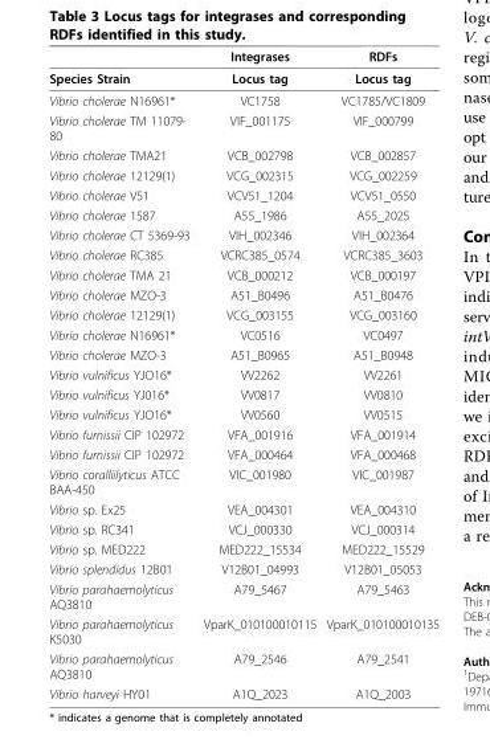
<table><thead><tr><td></td><td>Integrases</td><td>RDFs</td></tr></thead><tbody><tr><td>Species Strain</td><td>Locus tag</td><td>Locus tag</td></tr><tr><td>Vibrio cholerae N16961*</td><td>VC1758</td><td>VC1785/VC1809</td></tr><tr><td>Vibrio cholerae TM 11079- 80</td><td>VIF_001175</td><td>VIF_000799</td></tr><tr><td>Vibrio cholerae TMA21</td><td>VCB_002798</td><td>VCB_002857</td></tr><tr><td>Vibrio cholerae 12129(1)</td><td>VCG_002315</td><td>VCG_002259</td></tr><tr><td>Vibrio cholerae V51</td><td>VCV51_1204</td><td>VCV51_0550</td></tr><tr><td>Vibrio cholerae 1587</td><td>A55_1986</td><td>A55_2025</td></tr><tr><td>Vibrio cholerae CT 5369-93</td><td>VIH_002346</td><td>VIH_002364</td></tr><tr><td>Vibrio cholerae RC385</td><td>VCRC385_0574</td><td>VCRC385_3603</td></tr><tr><td>Vibrio cholerae TMA 21</td><td>VCB_000212</td><td>VCB_000197</td></tr><tr><td>Vibrio cholerae MZO-3</td><td>A51_B0496</td><td>A51_B0476</td></tr><tr><td>Vibrio cholerae 12129(1)</td><td>VCG_003155</td><td>VCG_003160</td></tr><tr><td>Vibrio cholerae N16961*</td><td>VC0516</td><td>VC0497</td></tr><tr><td>Vibrio cholerae MZO-3</td><td>A51_B0965</td><td>A51_B0948</td></tr><tr><td>Vibrio vulnificus YJO16*</td><td>VV2262</td><td>VV2261</td></tr><tr><td>Vibrio vulnificus YJ016*</td><td>VV0817</td><td>VV0810</td></tr><tr><td>Vibrio vulnificus YJO16*</td><td>VV0560</td><td>VV0515</td></tr><tr><td>Vibrio furnissii CIP 102972</td><td>VFA_001916</td><td>VFA_001914</td></tr><tr><td>Vibrio furnissii CIP 102972</td><td>VFA_000464</td><td>VFA_000468</td></tr><tr><td>Vibrio coralliilyticus ATCC BAA-450</td><td>VIC_001980</td><td>VIC_001987</td></tr><tr><td>Vibrio sp. Ex25</td><td>VEA_004301</td><td>VEA_004310</td></tr><tr><td>Vibrio sp. RC341</td><td>VCJ_000330</td><td>VCJ_000314</td></tr><tr><td>Vibrio sp. MED222</td><td>MED222_15534</td><td>MED222_15529</td></tr><tr><td>Vibrio splendidus 12B01</td><td>V12B01_04993</td><td>V12B01_05053</td></tr><tr><td>Vibrio parahaemolyticus AQ3810</td><td>A79_5467</td><td>A79_5463</td></tr><tr><td>Vibrio parahaemolyticus K5030</td><td>VparK_010100010115</td><td>VparK_010100010135</td></tr><tr><td>Vibrio parahaemolyticus AQ3810</td><td>A79_2546</td><td>A79_2541</td></tr><tr><td>Vibrio harveyi HY01</td><td>A1Q_2023</td><td>A1Q_2003</td></tr></tbody></table>